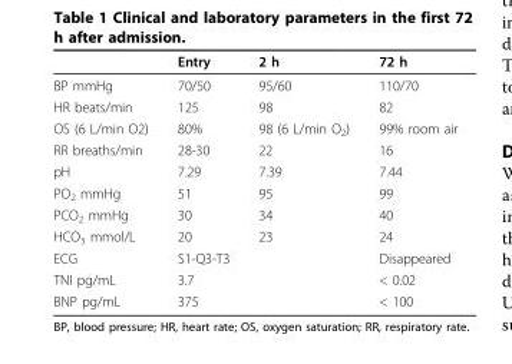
<table><thead><tr><td></td><td>Entry</td><td>2 h</td><td>72 h</td></tr></thead><tbody><tr><td>BP mmHg</td><td>70/50</td><td>95/60</td><td>110/70</td></tr><tr><td>HR beats/min</td><td>125</td><td>98</td><td>82</td></tr><tr><td>OS (6 L/min O2)</td><td>80%</td><td>98 (6 L/min O<sub>2</sub>)</td><td>99% room air</td></tr><tr><td>RR breaths/min</td><td>28-30</td><td>22</td><td>16</td></tr><tr><td>pH</td><td>7.29</td><td>7.39</td><td>7.44</td></tr><tr><td>PO<sub>2</sub> mmHg</td><td>51</td><td>95</td><td>99</td></tr><tr><td>PCO<sub>2</sub> mmHg</td><td>30</td><td>34</td><td>40</td></tr><tr><td>HCO<sub>3</sub> mmol/L</td><td>20</td><td>23</td><td>24</td></tr><tr><td>ECG</td><td>S1-Q3-T3</td><td></td><td>Disappeared</td></tr><tr><td>TNI pg/mL</td><td>3.7</td><td></td><td>&lt; 0.02</td></tr><tr><td>BNP pg/mL</td><td>375</td><td></td><td>&lt; 100</td></tr></tbody></table>